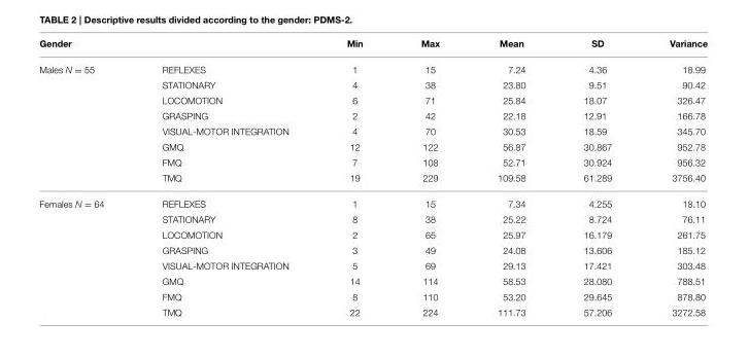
<table><thead><tr><td colspan="2">Gender</td><td rowspan="2">Min 1</td><td rowspan="2">Max 15</td><td rowspan="2">Mean 7.24</td><td rowspan="2">SD 4.36</td><td rowspan="2">Variance 18.99</td></tr><tr><td>Males N = 55</td><td>REFLEXES</td></tr></thead><tbody><tr><td></td><td>STATIONARY</td><td>4</td><td>38</td><td>23.80</td><td>9.51</td><td>90.42</td></tr><tr><td></td><td>LOCOMOTION</td><td>6</td><td>71</td><td>25.84</td><td>18.07</td><td>326.47</td></tr><tr><td></td><td>GRASPING</td><td>2</td><td>42</td><td>22.18</td><td>12.91</td><td>166.78</td></tr><tr><td></td><td>VISUAL-MOTOR INTEGRATION</td><td>4</td><td>70</td><td>30.53</td><td>18.59</td><td>345.70</td></tr><tr><td></td><td>GMQ</td><td>12</td><td>122</td><td>56.87</td><td>30.867</td><td>952.78</td></tr><tr><td></td><td>FMQ</td><td>7</td><td>108</td><td>52.71</td><td>30.924</td><td>956.32</td></tr><tr><td></td><td>TMQ</td><td>19</td><td>229</td><td>109.58</td><td>61.289</td><td>3756.40</td></tr><tr><td rowspan="8">Females N = 64</td><td>REFLEXES</td><td>1</td><td>15</td><td>7.34</td><td>4.255</td><td>18.10</td></tr><tr><td>STATIONARY</td><td>8</td><td>38</td><td>25.22</td><td>8.724</td><td>76.11</td></tr><tr><td>LOCOMOTION</td><td>2</td><td>65</td><td>25.97</td><td>16.179</td><td>261.75</td></tr><tr><td>GRASPING</td><td>3</td><td>49</td><td>24.08</td><td>13.606</td><td>185.12</td></tr><tr><td>VISUAL-MOTOR INTEGRATION</td><td>5</td><td>69</td><td>29.13</td><td>17.421</td><td>303.48</td></tr><tr><td>GMQ</td><td>14</td><td>114</td><td>58.53</td><td>28.080</td><td>788.51</td></tr><tr><td>FMQ</td><td>8</td><td>110</td><td>53.20</td><td>29.645</td><td>878.80</td></tr><tr><td>TMQ</td><td>22</td><td>224</td><td>111.73</td><td>57.206</td><td>3272.58</td></tr></tbody></table>